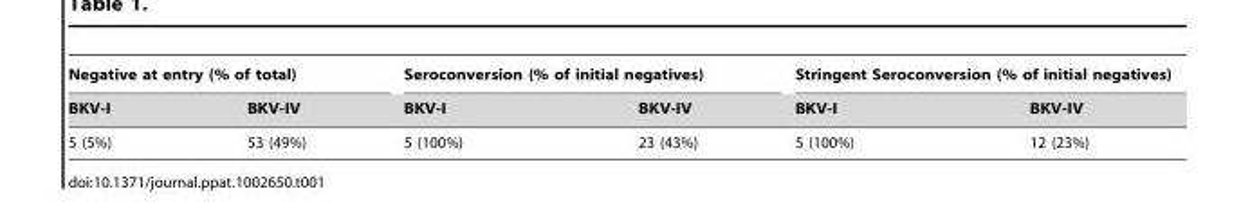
<table><thead><tr><td colspan="2">Negative at entry (% of total)</td><td colspan="2">Seroconversion (% of initial negatives)</td><td colspan="2">Stringent Seroconversion (% of initial negatives)</td></tr><tr><td>BKV-I</td><td>BKV-IV</td><td>BKV-I</td><td>BKV-IV</td><td>BKV-I</td><td>BKV-IV</td></tr></thead><tbody><tr><td>5 (5%)</td><td>53 (49%)</td><td>5 (100%)</td><td>23 (43%)</td><td>5 (100%)</td><td>12 (23%)</td></tr></tbody></table>